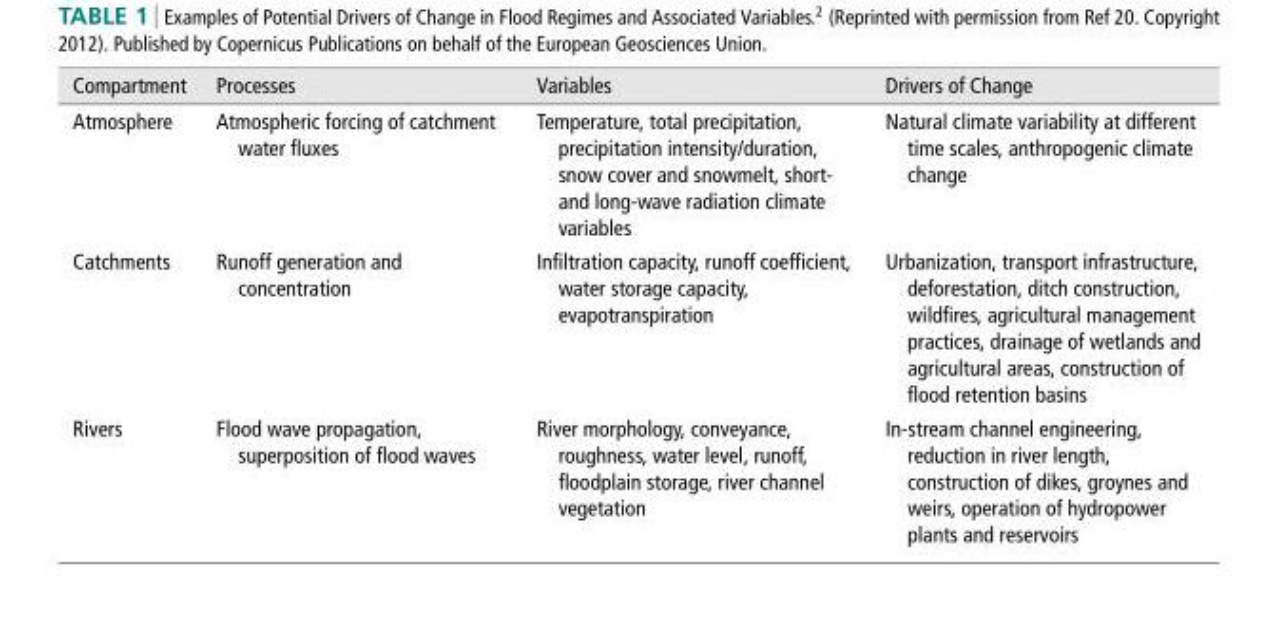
<table><thead><tr><td>Compartment</td><td>Processes</td><td>Variables</td><td>Drivers of Change</td></tr></thead><tbody><tr><td>Atmosphere</td><td>Atmospheric forcing of catchment water fluxes</td><td>Temperature, total precipitation, precipitation intensity/duration, snow cover and snowmelt, short- and long-wave radiation climate variables</td><td>Natural climate variability at different time scales, anthropogenic climate change</td></tr><tr><td>Catchments</td><td>Runoff generation and concentration</td><td>Infiltration capacity, runoff coefficient, water storage capacity, evapotranspiration</td><td>Urbanization, transport infrastructure, deforestation, ditch construction, wildfires, agricultural management practices, drainage of wetlands and agricultural areas, construction of flood retention basins</td></tr><tr><td>Rivers</td><td>Flood wave propagation, superposition of flood waves</td><td>River morphology, conveyance, roughness, water level, runoff, floodplain storage, river channel vegetation</td><td>In-stream channel engineering, reduction in river length, construction of dikes, groynes and weirs, operation of hydropower plants and reservoirs</td></tr></tbody></table>